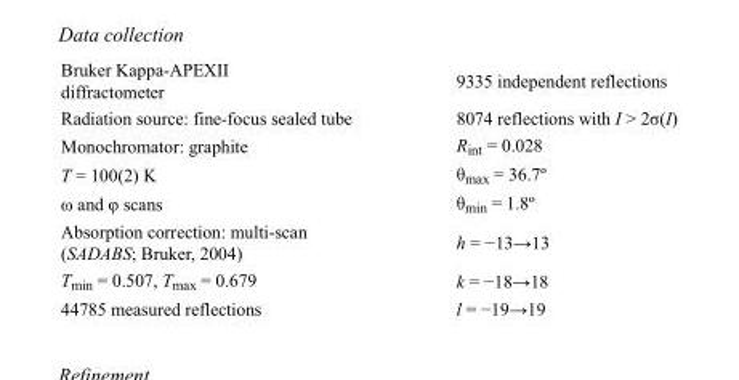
<table><tbody><tr><td>Bruker Kappa-APEXII diffractometer</td><td>9335 independent reflections</td></tr><tr><td>Radiation source: fine-focus sealed tube</td><td>8074 reflections with I &gt; 2σ(I)</td></tr><tr><td>Monochromator: graphite</td><td>R<sub>int</sub> = 0.028</td></tr><tr><td>T = 100(2) K</td><td>θ<sub>max</sub> = 36.7º</td></tr><tr><td>ω and φ scans</td><td>θ<sub>min</sub> = 1.8º</td></tr><tr><td>Absorption correction: multi-scan (SADABS; Bruker, 2004)</td><td>h = −13→13</td></tr><tr><td>T<sub>min</sub> = 0.507, T<sub>max</sub> = 0.679</td><td>k = −18→18</td></tr><tr><td>44785 measured reflections</td><td>l = −19→19</td></tr></tbody></table>